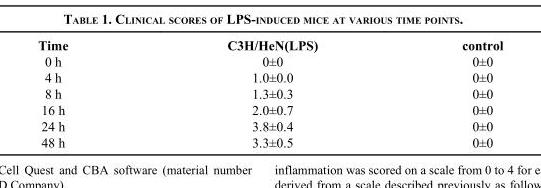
<table><thead><tr><td>Time</td><td>C3H/HeN(LPS)</td><td>control</td></tr></thead><tbody><tr><td>0 h</td><td>0±0</td><td>0±0</td></tr><tr><td>4 h</td><td>1.0±0.0</td><td>0±0</td></tr><tr><td>8 h</td><td>1.3±0.3</td><td>0±0</td></tr><tr><td>16 h</td><td>2.0±0.7</td><td>0±0</td></tr><tr><td>24 h</td><td>3.8±0.4</td><td>0±0</td></tr><tr><td>48 h</td><td>3.3±0.5</td><td>0±0</td></tr></tbody></table>